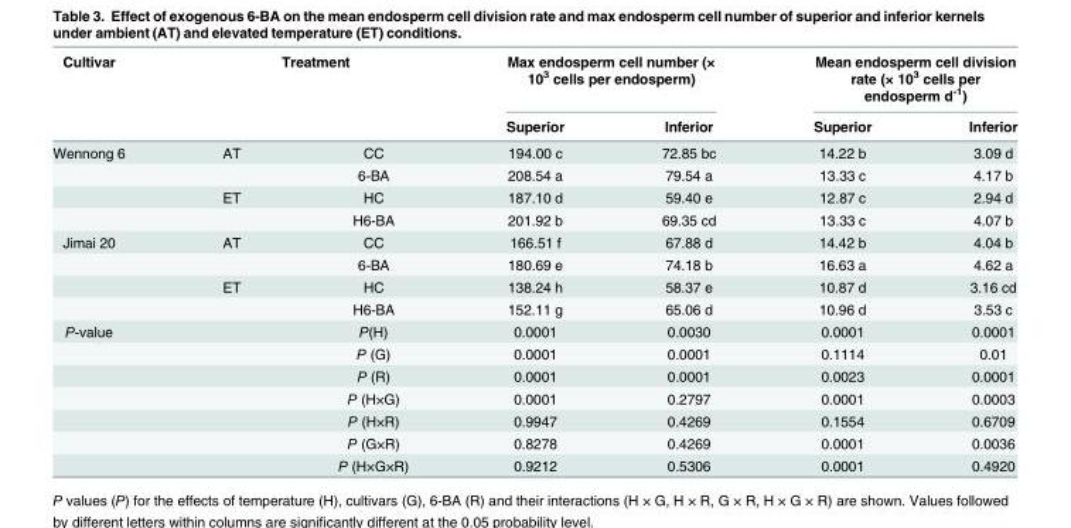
<table><thead><tr><td rowspan="2">Cultivar</td><td colspan="2">Treatment</td><td colspan="2">Max endosperm cell number (× 10<sup>3</sup> cells per endosperm)</td><td colspan="2">Mean endosperm cell division rate (× 10<sup>3</sup> cells per endosperm d<sup>-1</sup>)</td></tr><tr><td></td><td></td><td>Superior</td><td>Inferior</td><td>Superior</td><td>Inferior</td></tr></thead><tbody><tr><td rowspan="4">Wennong 6</td><td>AT</td><td>CC</td><td>194.00 c</td><td>72.85 bc</td><td>14.22 b</td><td>3.09 d</td></tr><tr><td></td><td>6-BA</td><td>208.54 a</td><td>79.54 a</td><td>13.33 c</td><td>4.17 b</td></tr><tr><td>ET</td><td>HC</td><td>187.10 d</td><td>59.40 e</td><td>12.87 c</td><td>2.94 d</td></tr><tr><td></td><td>H6-BA</td><td>201.92 b</td><td>69.35 cd</td><td>13.33 c</td><td>4.07 b</td></tr><tr><td rowspan="4">Jimai 20</td><td>AT</td><td>CC</td><td>166.51 f</td><td>67.88 d</td><td>14.42 b</td><td>4.04 b</td></tr><tr><td></td><td>6-BA</td><td>180.69 e</td><td>74.18 b</td><td>16.63 a</td><td>4.62 a</td></tr><tr><td>ET</td><td>HC</td><td>138.24 h</td><td>58.37 e</td><td>10.87 d</td><td>3.16 cd</td></tr><tr><td></td><td>H6-BA</td><td>152.11 g</td><td>65.06 d</td><td>10.96 d</td><td>3.53 c</td></tr><tr><td rowspan="7">P-value</td><td></td><td>P(H)</td><td>0.0001</td><td>0.0030</td><td>0.0001</td><td>0.0001</td></tr><tr><td></td><td>P (G)</td><td>0.0001</td><td>0.0001</td><td>0.1114</td><td>0.01</td></tr><tr><td></td><td>P (R)</td><td>0.0001</td><td>0.0001</td><td>0.0023</td><td>0.0001</td></tr><tr><td></td><td>P (H×G)</td><td>0.0001</td><td>0.2797</td><td>0.0001</td><td>0.0003</td></tr><tr><td></td><td>P (H×R)</td><td>0.9947</td><td>0.4269</td><td>0.1554</td><td>0.6709</td></tr><tr><td></td><td>P (G×R)</td><td>0.8278</td><td>0.4269</td><td>0.0001</td><td>0.0036</td></tr><tr><td></td><td>P (H×G×R)</td><td>0.9212</td><td>0.5306</td><td>0.0001</td><td>0.4920</td></tr></tbody></table>